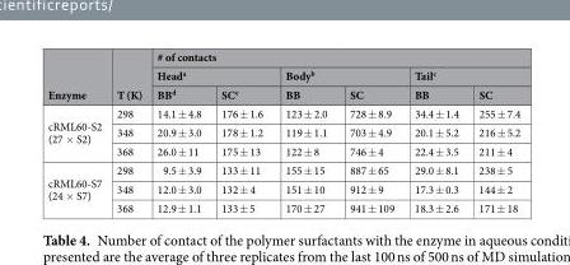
<table><thead><tr><td rowspan="3">Enzyme</td><td rowspan="3">T (K)</td><td colspan="6"># of contacts</td></tr><tr><td colspan="2">Head<sup>a</sup></td><td colspan="2">Body<sup>b</sup></td><td colspan="2">Tail<sup>c</sup></td></tr><tr><td>BB<sup>d</sup></td><td>SC<sup>e</sup></td><td>BB</td><td>SC</td><td>BB</td><td>SC</td></tr></thead><tbody><tr><td rowspan="3">cRML60-S2 (27 × S2)</td><td>298</td><td>14.1 ± 4.8</td><td>176 ± 1.6</td><td>123 ± 2.0</td><td>728 ± 8.9</td><td>34.4 ± 1.4</td><td>255 ± 7.4</td></tr><tr><td>348</td><td>20.9 ± 3.0</td><td>178 ± 1.2</td><td>119 ± 1.1</td><td>703 ± 4.9</td><td>20.1 ± 5.2</td><td>216 ± 5.2</td></tr><tr><td>368</td><td>26.0 ± 11</td><td>175 ± 13</td><td>122 ± 8</td><td>746 ± 4</td><td>22.4 ± 3.5</td><td>211 ± 4</td></tr><tr><td rowspan="3">cRML60-S7 (24 × S7)</td><td>298</td><td>9.5 ± 3.9</td><td>133 ± 11</td><td>155 ± 15</td><td>887 ± 65</td><td>29.0 ± 8.1</td><td>238 ± 5</td></tr><tr><td>348</td><td>12.0 ± 3.0</td><td>132 ± 4</td><td>151 ± 10</td><td>912 ± 9</td><td>17.3 ± 0.3</td><td>144 ± 2</td></tr><tr><td>368</td><td>12.9 ± 1.1</td><td>133 ± 5</td><td>170 ± 27</td><td>941 ± 109</td><td>18.3 ± 2.6</td><td>171 ± 18</td></tr></tbody></table>